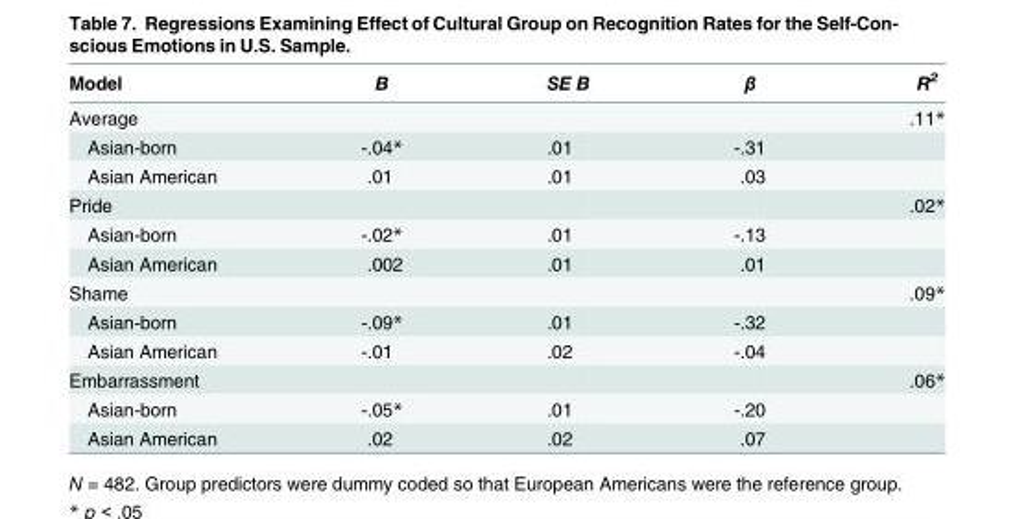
<table><thead><tr><td>Model</td><td>B</td><td>SE B</td><td>β</td><td>R<sup>2</sup></td></tr></thead><tbody><tr><td>Average</td><td></td><td></td><td></td><td>.11*</td></tr><tr><td>Asian-born</td><td>-.04*</td><td>.01</td><td>-.31</td><td></td></tr><tr><td>Asian American</td><td>.01</td><td>.01</td><td>.03</td><td></td></tr><tr><td>Pride</td><td></td><td></td><td></td><td>.02*</td></tr><tr><td>Asian-born</td><td>-.02*</td><td>.01</td><td>-.13</td><td></td></tr><tr><td>Asian American</td><td>.002</td><td>.01</td><td>.01</td><td></td></tr><tr><td>Shame</td><td></td><td></td><td></td><td>.09*</td></tr><tr><td>Asian-born</td><td>-.09*</td><td>.01</td><td>-.32</td><td></td></tr><tr><td>Asian American</td><td>-.01</td><td>.02</td><td>-.04</td><td></td></tr><tr><td>Embarrassment</td><td></td><td></td><td></td><td>.06*</td></tr><tr><td>Asian-born</td><td>-.05*</td><td>.01</td><td>-.20</td><td></td></tr><tr><td>Asian American</td><td>.02</td><td>.02</td><td>.07</td><td></td></tr></tbody></table>